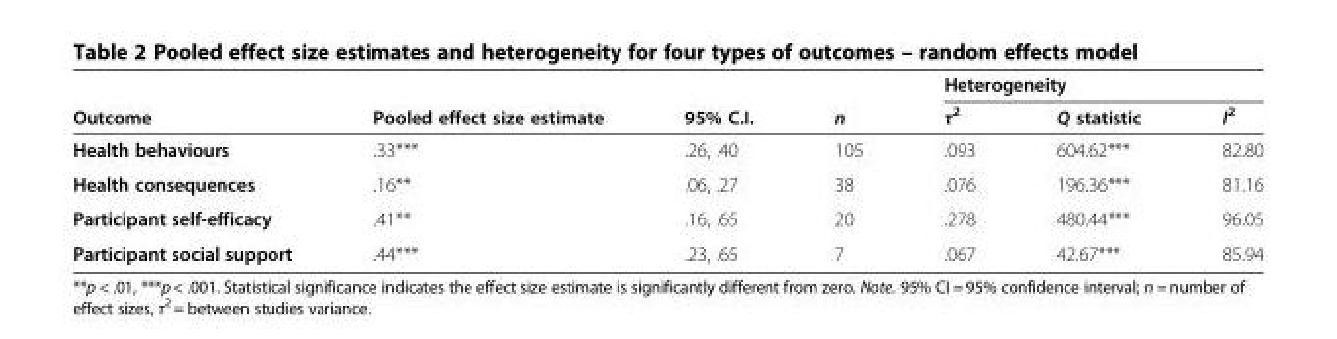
<table><thead><tr><td rowspan="2">Outcome</td><td rowspan="2">Pooled effect size estimate</td><td rowspan="2">95% C.I.</td><td rowspan="2">n</td><td colspan="3">Heterogeneity</td></tr><tr><td>τ<sup>2</sup></td><td>Q statistic</td><td>I<sup>2</sup></td></tr></thead><tbody><tr><td>Health behaviours</td><td>.33***</td><td>.26, .40</td><td>105</td><td>.093</td><td>604.62***</td><td>82.80</td></tr><tr><td>Health consequences</td><td>.16**</td><td>.06, .27</td><td>38</td><td>.076</td><td>196.36***</td><td>81.16</td></tr><tr><td>Participant self-efficacy</td><td>.41**</td><td>.16, .65</td><td>20</td><td>.278</td><td>480.44***</td><td>96.05</td></tr><tr><td>Participant social support</td><td>.44***</td><td>.23, .65</td><td>7</td><td>.067</td><td>42.67***</td><td>85.94</td></tr></tbody></table>